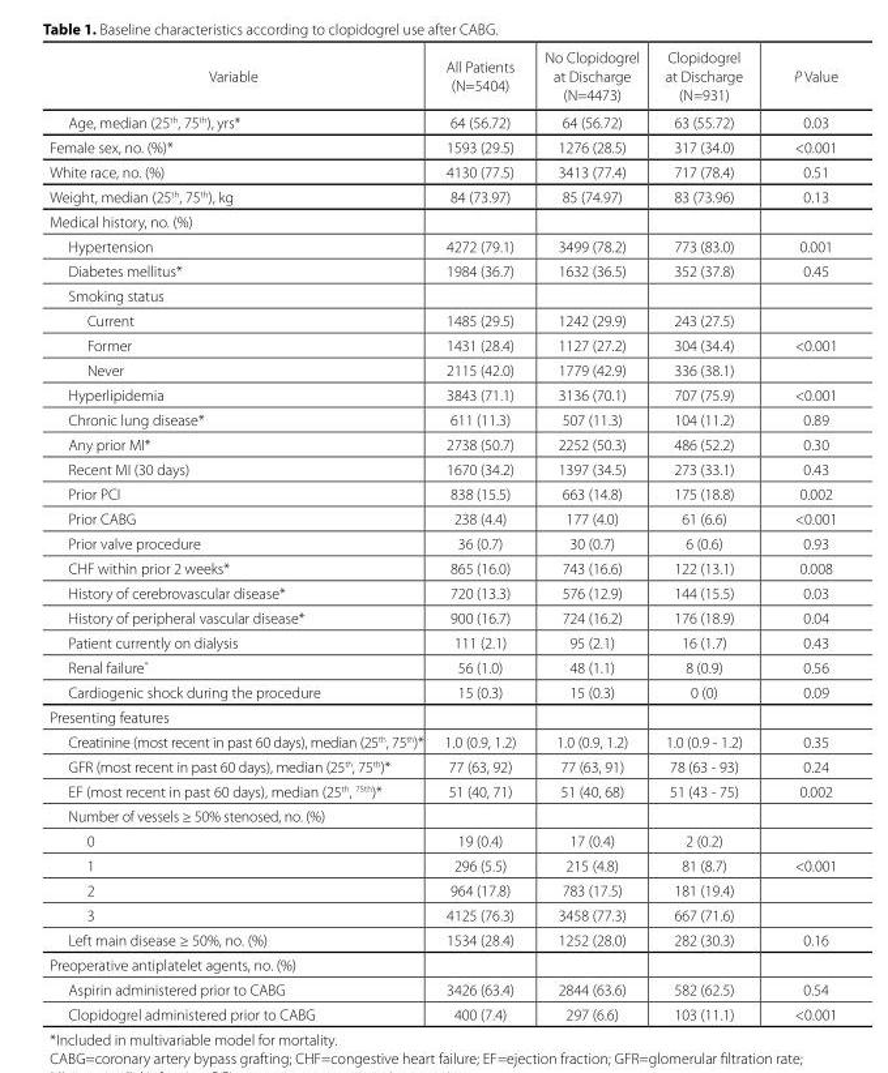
<table><thead><tr><td>Variable</td><td>All Patients (N=5404)</td><td>No Clopidogrel at Discharge (N=4473)</td><td>Clopidogrel at Discharge (N=931)</td><td>P Value</td></tr></thead><tbody><tr><td>Age, median (25<sup>th</sup>, 75<sup>th</sup>), yrs*</td><td>64 (56.72)</td><td>64 (56.72)</td><td>63 (55.72)</td><td>0.03</td></tr><tr><td>Female sex, no. (%)*</td><td>1593 (29.5)</td><td>1276 (28.5)</td><td>317 (34.0)</td><td>&lt;0.001</td></tr><tr><td>White race, no. (%)</td><td>4130 (77.5)</td><td>3413 (77.4)</td><td>717 (78.4)</td><td>0.51</td></tr><tr><td>Weight, median (25<sup>th</sup>, 75<sup>th</sup>), kg</td><td>84 (73.97)</td><td>85 (74.97)</td><td>83 (73.96)</td><td>0.13</td></tr><tr><td colspan="5">Medical history, no. (%)</td></tr><tr><td>Hypertension</td><td>4272 (79.1)</td><td>3499 (78.2)</td><td>773 (83.0)</td><td>0.001</td></tr><tr><td>Diabetes mellitus*</td><td>1984 (36.7)</td><td>1632 (36.5)</td><td>352 (37.8)</td><td>0.45</td></tr><tr><td colspan="5">Smoking status</td></tr><tr><td>Current</td><td>1485 (29.5)</td><td>1242 (29.9)</td><td>243 (27.5)</td><td></td></tr><tr><td>Former</td><td>1431 (28.4)</td><td>1127 (27.2)</td><td>304 (34.4)</td><td>&lt;0.001</td></tr><tr><td>Never</td><td>2115 (42.0)</td><td>1779 (42.9)</td><td>336 (38.1)</td><td></td></tr><tr><td>Hyperlipidemia</td><td>3843 (71.1)</td><td>3136 (70.1)</td><td>707 (75.9)</td><td>&lt;0.001</td></tr><tr><td>Chronic lung disease*</td><td>611 (11.3)</td><td>507 (11.3)</td><td>104 (11.2)</td><td>0.89</td></tr><tr><td>Any prior MI*</td><td>2738 (50.7)</td><td>2252 (50.3)</td><td>486 (52.2)</td><td>0.30</td></tr><tr><td>Recent MI (30 days)</td><td>1670 (34.2)</td><td>1397 (34.5)</td><td>273 (33.1)</td><td>0.43</td></tr><tr><td>Prior PCI</td><td>838 (15.5)</td><td>663 (14.8)</td><td>175 (18.8)</td><td>0.002</td></tr><tr><td>Prior CABG</td><td>238 (4.4)</td><td>177 (4.0)</td><td>61 (6.6)</td><td>&lt;0.001</td></tr><tr><td>Prior valve procedure</td><td>36 (0.7)</td><td>30 (0.7)</td><td>6 (0.6)</td><td>0.93</td></tr><tr><td>CHF within prior 2 weeks*</td><td>865 (16.0)</td><td>743 (16.6)</td><td>122 (13.1)</td><td>0.008</td></tr><tr><td>History of cerebrovascular disease*</td><td>720 (13.3)</td><td>576 (12.9)</td><td>144 (15.5)</td><td>0.03</td></tr><tr><td>History of peripheral vascular disease*</td><td>900 (16.7)</td><td>724 (16.2)</td><td>176 (18.9)</td><td>0.04</td></tr><tr><td>Patient currently on dialysis</td><td>111 (2.1)</td><td>95 (2.1)</td><td>16 (1.7)</td><td>0.43</td></tr><tr><td>Renal failure*</td><td>56 (1.0)</td><td>48 (1.1)</td><td>8 (0.9)</td><td>0.56</td></tr><tr><td>Cardiogenic shock during the procedure</td><td>15 (0.3)</td><td>15 (0.3)</td><td>0 (0)</td><td>0.09</td></tr><tr><td colspan="5">Presenting features</td></tr><tr><td>Creatinine (most recent in past 60 days), median (25<sup>th</sup>, 75<sup>th</sup>)*</td><td>1.0 (0.9, 1.2)</td><td>1.0 (0.9, 1.2)</td><td>1.0 (0.9 - 1.2)</td><td>0.35</td></tr><tr><td>GFR (most recent in past 60 days), median (25<sup>th</sup>, 75<sup>th</sup>)*</td><td>77 (63, 92)</td><td>77 (63, 91)</td><td>78 (63 - 93)</td><td>0.24</td></tr><tr><td>EF (most recent in past 60 days), median (25<sup>th</sup>, <sup>75th</sup>)*</td><td>51 (40, 71)</td><td>51 (40, 68)</td><td>51 (43 - 75)</td><td>0.002</td></tr><tr><td colspan="5">Number of vessels ≥ 50% stenosed, no. (%)</td></tr><tr><td>0</td><td>19 (0.4)</td><td>17 (0.4)</td><td>2 (0.2)</td><td></td></tr><tr><td>1</td><td>296 (5.5)</td><td>215 (4.8)</td><td>81 (8.7)</td><td>&lt;0.001</td></tr><tr><td>2</td><td>964 (17.8)</td><td>783 (17.5)</td><td>181 (19.4)</td><td></td></tr><tr><td>3</td><td>4125 (76.3)</td><td>3458 (77.3)</td><td>667 (71.6)</td><td></td></tr><tr><td>Left main disease ≥ 50%, no. (%)</td><td>1534 (28.4)</td><td>1252 (28.0)</td><td>282 (30.3)</td><td>0.16</td></tr><tr><td colspan="5">Preoperative antiplatelet agents, no. (%)</td></tr><tr><td>Aspirin administered prior to CABG</td><td>3426 (63.4)</td><td>2844 (63.6)</td><td>582 (62.5)</td><td>0.54</td></tr><tr><td>Clopidogrel administered prior to CABG</td><td>400 (7.4)</td><td>297 (6.6)</td><td>103 (11.1)</td><td>&lt;0.001</td></tr></tbody></table>